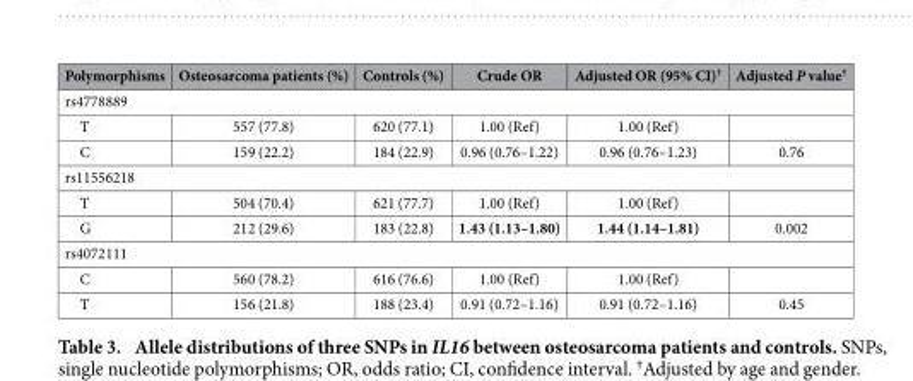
<table><thead><tr><td>Polymorphisms</td><td>Osteosarcoma patients (%)</td><td>Controls (%)</td><td>Crude OR</td><td>Adjusted OR (95% CI)†</td><td>Adjusted P value†</td></tr></thead><tbody><tr><td colspan="6">rs4778889</td></tr><tr><td>T</td><td>557 (77.8)</td><td>620 (77.1)</td><td>1.00 (Ref)</td><td>1.00 (Ref)</td><td></td></tr><tr><td>C</td><td>159 (22.2)</td><td>184 (22.9)</td><td>0.96 (0.76–1.22)</td><td>0.96 (0.76–1.23)</td><td>0.76</td></tr><tr><td colspan="6">rs11556218</td></tr><tr><td>T</td><td>504 (70.4)</td><td>621 (77.7)</td><td>1.00 (Ref)</td><td>1.00 (Ref)</td><td></td></tr><tr><td>G</td><td>212 (29.6)</td><td>183 (22.8)</td><td>1.43 (1.13–1.80)</td><td>1.44 (1.14–1.81)</td><td>0.002</td></tr><tr><td colspan="6">rs4072111</td></tr><tr><td>C</td><td>560 (78.2)</td><td>616 (76.6)</td><td>1.00 (Ref)</td><td>1.00 (Ref)</td><td></td></tr><tr><td>T</td><td>156 (21.8)</td><td>188 (23.4)</td><td>0.91 (0.72–1.16)</td><td>0.91 (0.72–1.16)</td><td>0.45</td></tr></tbody></table>